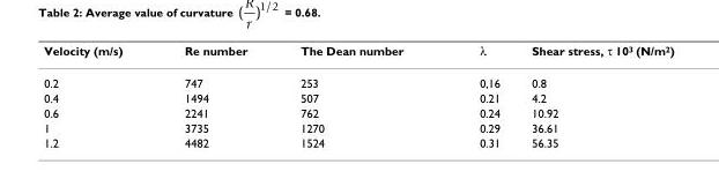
<table><thead><tr><td>Velocity (m/s)</td><td>Re number</td><td>The Dean number</td><td>λ</td><td>Shear stress, τ 10<sup>3</sup> (N/m<sup>2</sup>)</td></tr></thead><tbody><tr><td>0.2</td><td>747</td><td>253</td><td>0,16</td><td>0.8</td></tr><tr><td>0.4</td><td>1494</td><td>507</td><td>0.21</td><td>4.2</td></tr><tr><td>0.6</td><td>2241</td><td>762</td><td>0.24</td><td>10.92</td></tr><tr><td>1</td><td>3735</td><td>1270</td><td>0.29</td><td>36.61</td></tr><tr><td>1.2</td><td>4482</td><td>1524</td><td>0.31</td><td>56.35</td></tr></tbody></table>